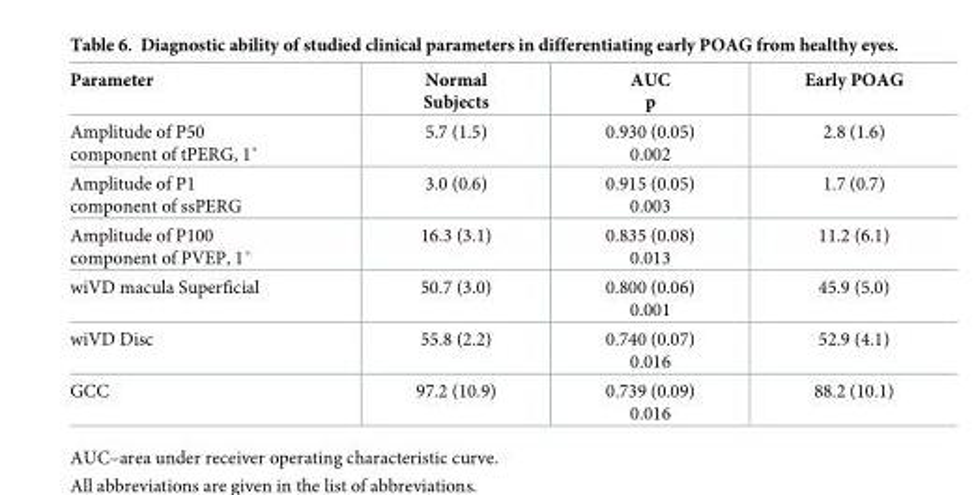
<table><thead><tr><td>Parameter</td><td>Normal Subjects</td><td>AUC p</td><td>Early POAG</td></tr></thead><tbody><tr><td>Amplitude of P50 component of tPERG, 1˚</td><td>5.7 (1.5)</td><td>0.930 (0.05) 0.002</td><td>2.8 (1.6)</td></tr><tr><td>Amplitude of P1 component of ssPERG</td><td>3.0 (0.6)</td><td>0.915 (0.05) 0.003</td><td>1.7 (0.7)</td></tr><tr><td>Amplitude of P100 component of PVEP, 1˚</td><td>16.3 (3.1)</td><td>0.835 (0.08) 0.013</td><td>11.2 (6.1)</td></tr><tr><td>wiVD macula Superficial</td><td>50.7 (3.0)</td><td>0.800 (0.06) 0.001</td><td>45.9 (5.0)</td></tr><tr><td>wiVD Disc</td><td>55.8 (2.2)</td><td>0.740 (0.07) 0.016</td><td>52.9 (4.1)</td></tr><tr><td>GCC</td><td>97.2 (10.9)</td><td>0.739 (0.09) 0.016</td><td>88.2 (10.1)</td></tr></tbody></table>